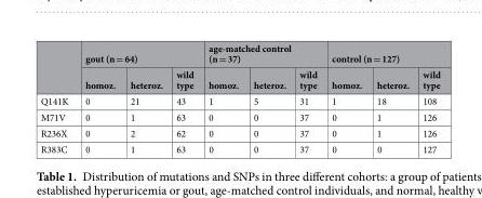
<table><thead><tr><td rowspan="2"></td><td colspan="3">gout (n = 64)</td><td colspan="3">age-matched control (n = 37)</td><td colspan="3">control (n = 127)</td></tr><tr><td>homoz.</td><td>heteroz.</td><td>wild type</td><td>homoz.</td><td>heteroz.</td><td>wild type</td><td>homoz.</td><td>heteroz.</td><td>wild type</td></tr></thead><tbody><tr><td>Q141K</td><td>0</td><td>21</td><td>43</td><td>1</td><td>5</td><td>31</td><td>1</td><td>18</td><td>108</td></tr><tr><td>M71V</td><td>0</td><td>1</td><td>63</td><td>0</td><td>0</td><td>37</td><td>0</td><td>1</td><td>126</td></tr><tr><td>R236X</td><td>0</td><td>2</td><td>62</td><td>0</td><td>0</td><td>37</td><td>0</td><td>1</td><td>126</td></tr><tr><td>R383C</td><td>0</td><td>1</td><td>63</td><td>0</td><td>0</td><td>37</td><td>0</td><td>0</td><td>127</td></tr></tbody></table>